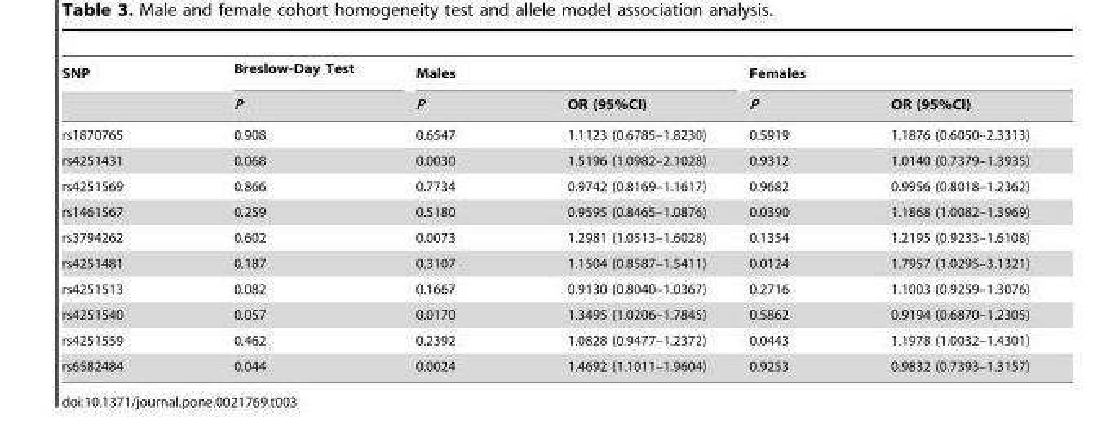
<table><thead><tr><td rowspan="2">SNP</td><td rowspan="2">Breslow-Day Test P</td><td colspan="2">Males</td><td colspan="2">Females</td></tr><tr><td>P</td><td>OR (95%CI)</td><td>P</td><td>OR (95%CI)</td></tr></thead><tbody><tr><td>rs1870765</td><td>0.908</td><td>0.6547</td><td>1.1123 (0.6785–1.8230)</td><td>0.5919</td><td>1.1876 (0.6050–2.3313)</td></tr><tr><td>rs4251431</td><td>0.068</td><td>0.0030</td><td>1.5196 (1.0982–2.1028)</td><td>0.9312</td><td>1.0140 (0.7379–1.3935)</td></tr><tr><td>rs4251569</td><td>0.866</td><td>0.7734</td><td>0.9742 (0.8169–1.1617)</td><td>0.9682</td><td>0.9956 (0.8018–1.2362)</td></tr><tr><td>rs1461567</td><td>0.259</td><td>0.5180</td><td>0.9595 (0.8465–1.0876)</td><td>0.0390</td><td>1.1868 (1.0082–1.3969)</td></tr><tr><td>rs3794262</td><td>0.602</td><td>0.0073</td><td>1.2981 (1.0513–1.6028)</td><td>0.1354</td><td>1.2195 (0.9233–1.6108)</td></tr><tr><td>rs4251481</td><td>0.187</td><td>0.3107</td><td>1.1504 (0.8587–1.5411)</td><td>0.0124</td><td>1.7957 (1.0295–3.1321)</td></tr><tr><td>rs4251513</td><td>0.082</td><td>0.1667</td><td>0.9130 (0.8040–1.0367)</td><td>0.2716</td><td>1.1003 (0.9259–1.3076)</td></tr><tr><td>rs4251540</td><td>0.057</td><td>0.0170</td><td>1.3495 (1.0206–1.7845)</td><td>0.5862</td><td>0.9194 (0.6870–1.2305)</td></tr><tr><td>rs4251559</td><td>0.462</td><td>0.2392</td><td>1.0828 (0.9477–1.2372)</td><td>0.0443</td><td>1.1978 (1.0032–1.4301)</td></tr><tr><td>rs6582484</td><td>0.044</td><td>0.0024</td><td>1.4692 (1.1011–1.9604)</td><td>0.9253</td><td>0.9832 (0.7393–1.3157)</td></tr></tbody></table>